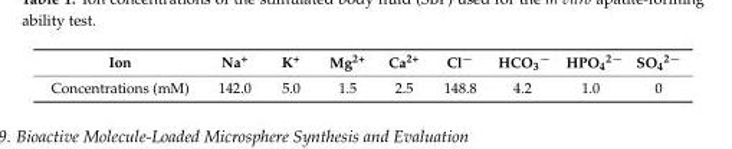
<table><thead><tr><td>Ion</td><td>Na<sup>+</sup></td><td>K<sup>+</sup></td><td>Mg<sup>2+</sup></td><td>Ca<sup>2+</sup></td><td>Cl<sup>−</sup></td><td>HCO<sub>3</sub><sup>−</sup></td><td>HPO<sub>4</sub><sup>2−</sup></td><td>SO<sub>4</sub><sup>2−</sup></td></tr></thead><tbody><tr><td>Concentrations (mM)</td><td>142.0</td><td>5.0</td><td>1.5</td><td>2.5</td><td>148.8</td><td>4.2</td><td>1.0</td><td>0</td></tr></tbody></table>